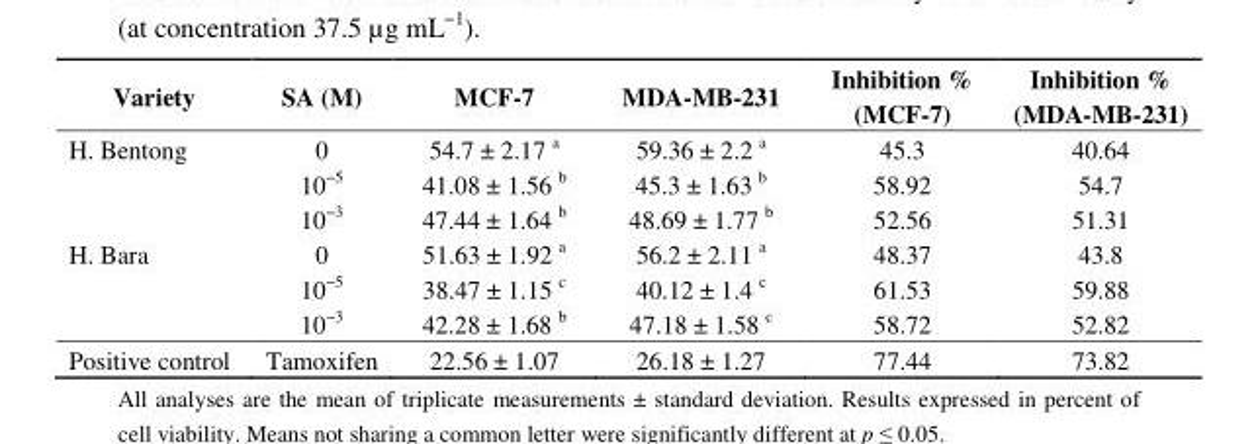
<table><thead><tr><td>Variety</td><td>SA (M)</td><td>MCF-7</td><td>MDA-MB-231</td><td>Inhibition % (MCF-7)</td><td>Inhibition % (MDA-MB-231)</td></tr></thead><tbody><tr><td rowspan="3">H. Bentong</td><td>0</td><td>54.7 ± 2.17 <sup>a</sup></td><td>59.36 ± 2.2 <sup>a</sup></td><td>45.3</td><td>40.64</td></tr><tr><td>10<sup>−5</sup></td><td>41.08 ± 1.56 <sup>b</sup></td><td>45.3 ± 1.63 <sup>b</sup></td><td>58.92</td><td>54.7</td></tr><tr><td>10<sup>−3</sup></td><td>47.44 ± 1.64 <sup>b</sup></td><td>48.69 ± 1.77 <sup>b</sup></td><td>52.56</td><td>51.31</td></tr><tr><td rowspan="3">H. Bara</td><td>0</td><td>51.63 ± 1.92 <sup>a</sup></td><td>56.2 ± 2.11 <sup>a</sup></td><td>48.37</td><td>43.8</td></tr><tr><td>10<sup>−5</sup></td><td>38.47 ± 1.15 <sup>c</sup></td><td>40.12 ± 1.4 <sup>c</sup></td><td>61.53</td><td>59.88</td></tr><tr><td>10<sup>−3</sup></td><td>42.28 ± 1.68 <sup>b</sup></td><td>47.18 ± 1.58 <sup>c</sup></td><td>58.72</td><td>52.82</td></tr><tr><td>Positive control</td><td>Tamoxifen</td><td>22.56 ± 1.07</td><td>26.18 ± 1.27</td><td>77.44</td><td>73.82</td></tr></tbody></table>